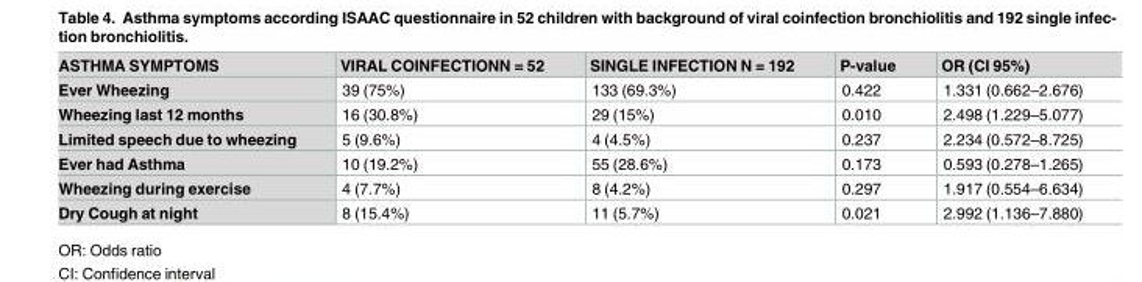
<table><thead><tr><td>ASTHMA SYMPTOMS</td><td>VIRAL COINFECTIONN = 52</td><td>SINGLE INFECTION N = 192</td><td>P-value</td><td>OR (CI 95%)</td></tr></thead><tbody><tr><td>Ever Wheezing</td><td>39 (75%)</td><td>133 (69.3%)</td><td>0.422</td><td>1.331 (0.662–2.676)</td></tr><tr><td>Wheezing last 12 months</td><td>16 (30.8%)</td><td>29 (15%)</td><td>0.010</td><td>2.498 (1.229–5.077)</td></tr><tr><td>Limited speech due to wheezing</td><td>5 (9.6%)</td><td>4 (4.5%)</td><td>0.237</td><td>2.234 (0.572–8.725)</td></tr><tr><td>Ever had Asthma</td><td>10 (19.2%)</td><td>55 (28.6%)</td><td>0.173</td><td>0.593 (0.278–1.265)</td></tr><tr><td>Wheezing during exercise</td><td>4 (7.7%)</td><td>8 (4.2%)</td><td>0.297</td><td>1.917 (0.554–6.634)</td></tr><tr><td>Dry Cough at night</td><td>8 (15.4%)</td><td>11 (5.7%)</td><td>0.021</td><td>2.992 (1.136–7.880)</td></tr></tbody></table>